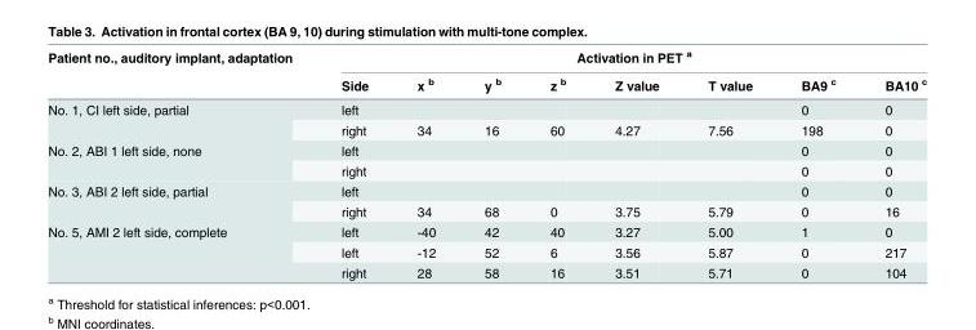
<table><thead><tr><td rowspan="2">Patient no., auditory implant, adaptation</td><td colspan="8">Activation in PET <sup>a</sup></td></tr><tr><td>Side</td><td>x <sup>b</sup></td><td>y <sup>b</sup></td><td>z <sup>b</sup></td><td>Z value</td><td>T value</td><td>BA9 <sup>c</sup></td><td>BA10 <sup>c</sup></td></tr></thead><tbody><tr><td rowspan="2">No. 1, CI left side, partial</td><td>left</td><td></td><td></td><td></td><td></td><td></td><td>0</td><td>0</td></tr><tr><td>right</td><td>34</td><td>16</td><td>60</td><td>4.27</td><td>7.56</td><td>198</td><td>0</td></tr><tr><td rowspan="2">No. 2, ABI 1 left side, none</td><td>left</td><td></td><td></td><td></td><td></td><td></td><td>0</td><td>0</td></tr><tr><td>right</td><td></td><td></td><td></td><td></td><td></td><td>0</td><td>0</td></tr><tr><td rowspan="2">No. 3, ABI 2 left side, partial</td><td>left</td><td></td><td></td><td></td><td></td><td></td><td>0</td><td>0</td></tr><tr><td>right</td><td>34</td><td>68</td><td>0</td><td>3.75</td><td>5.79</td><td>0</td><td>16</td></tr><tr><td rowspan="3">No. 5, AMI 2 left side, complete</td><td>left</td><td>-40</td><td>42</td><td>40</td><td>3.27</td><td>5.00</td><td>1</td><td>0</td></tr><tr><td>left</td><td>-12</td><td>52</td><td>6</td><td>3.56</td><td>5.87</td><td>0</td><td>217</td></tr><tr><td>right</td><td>28</td><td>58</td><td>16</td><td>3.51</td><td>5.71</td><td>0</td><td>104</td></tr></tbody></table>